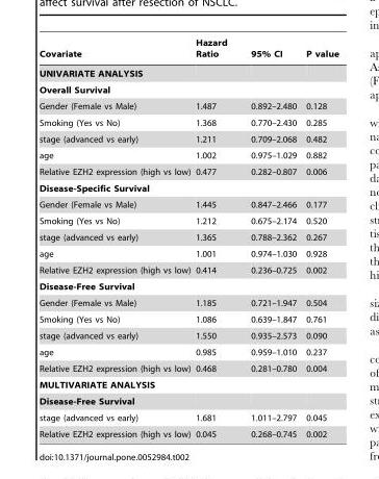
<table><thead><tr><td>Covariate</td><td>Hazard Ratio</td><td>95% CI</td><td>P value</td></tr></thead><tbody><tr><td colspan="4">UNIVARIATE ANALYSIS</td></tr><tr><td colspan="4">Overall Survival</td></tr><tr><td>Gender (Female vs Male)</td><td>1.487</td><td>0.892–2.480</td><td>0.128</td></tr><tr><td>Smoking (Yes vs No)</td><td>1.368</td><td>0.770–2.430</td><td>0.285</td></tr><tr><td>stage (advanced vs early)</td><td>1.211</td><td>0.709–2.068</td><td>0.482</td></tr><tr><td>age</td><td>1.002</td><td>0.975–1.029</td><td>0.882</td></tr><tr><td>Relative EZH2 expression (high vs low)</td><td>0.477</td><td>0.282–0.807</td><td>0.006</td></tr><tr><td colspan="4">Disease-Specific Survival</td></tr><tr><td>Gender (Female vs Male)</td><td>1.445</td><td>0.847–2.466</td><td>0.177</td></tr><tr><td>Smoking (Yes vs No)</td><td>1.212</td><td>0.675–2.174</td><td>0.520</td></tr><tr><td>stage (advanced vs early)</td><td>1.365</td><td>0.788–2.362</td><td>0.267</td></tr><tr><td>age</td><td>1.001</td><td>0.974–1.030</td><td>0.928</td></tr><tr><td>Relative EZH2 expression (high vs low)</td><td>0.414</td><td>0.236–0.725</td><td>0.002</td></tr><tr><td colspan="4">Disease-Free Survival</td></tr><tr><td>Gender (Female vs Male)</td><td>1.185</td><td>0.721–1.947</td><td>0.504</td></tr><tr><td>Smoking (Yes vs No)</td><td>1.086</td><td>0.639–1.847</td><td>0.761</td></tr><tr><td>stage (advanced vs early)</td><td>1.550</td><td>0.935–2.573</td><td>0.090</td></tr><tr><td>age</td><td>0.985</td><td>0.959–1.010</td><td>0.237</td></tr><tr><td>Relative EZH2 expression (high vs low)</td><td>0.468</td><td>0.281–0.780</td><td>0.004</td></tr><tr><td colspan="4">MULTIVARIATE ANALYSIS</td></tr><tr><td colspan="4">Disease-Free Survival</td></tr><tr><td>stage (advanced vs early)</td><td>1.681</td><td>1.011–2.797</td><td>0.045</td></tr><tr><td>Relative EZH2 expression (high vs low)</td><td>0.045</td><td>0.268–0.745</td><td>0.002</td></tr></tbody></table>